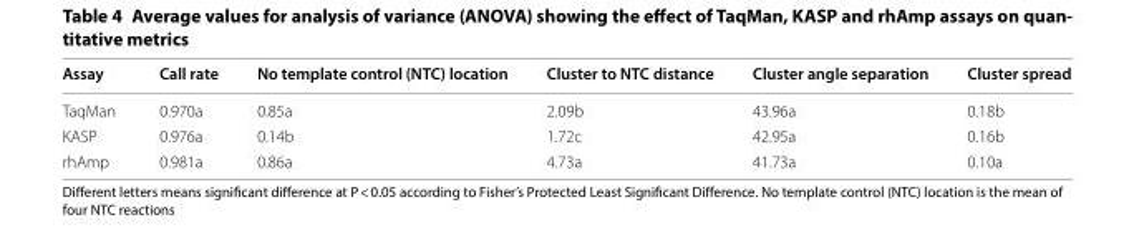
<table><thead><tr><td>Assay</td><td>Call rate</td><td>No template control (NTC) location</td><td>Cluster to NTC distance</td><td>Cluster angle separation</td><td>Cluster spread</td></tr></thead><tbody><tr><td>TaqMan</td><td>0.970a</td><td>0.85a</td><td>2.09b</td><td>43.96a</td><td>0.18b</td></tr><tr><td>KASP</td><td>0.976a</td><td>0.14b</td><td>1.72c</td><td>42.95a</td><td>0.16b</td></tr><tr><td>rhAmp</td><td>0.981a</td><td>0.86a</td><td>4.73a</td><td>41.73a</td><td>0.10a</td></tr></tbody></table>